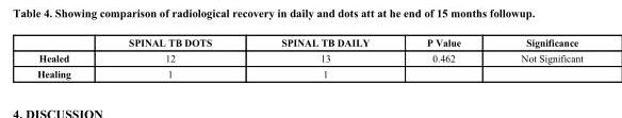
<table><thead><tr><td></td><td>SPINAL TB DOTS</td><td>SPINAL TB DAILY</td><td>P Value</td><td>Significance</td></tr></thead><tbody><tr><td>Healed</td><td>12</td><td>13</td><td>0.462</td><td>Not Significant</td></tr><tr><td>Healing</td><td>1</td><td>1</td><td></td><td></td></tr></tbody></table>